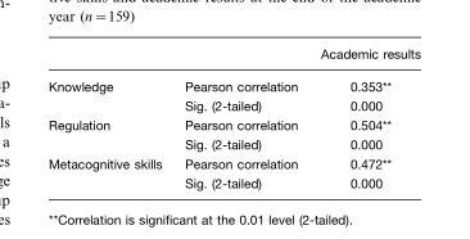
<table><thead><tr><td></td><td></td><td>Academic results</td></tr></thead><tbody><tr><td rowspan="2">Knowledge</td><td>Pearson correlation</td><td>0.353**</td></tr><tr><td>Sig. (2-tailed)</td><td>0.000</td></tr><tr><td rowspan="2">Regulation</td><td>Pearson correlation</td><td>0.504**</td></tr><tr><td>Sig. (2-tailed)</td><td>0.000</td></tr><tr><td rowspan="2">Metacognitive skills</td><td>Pearson correlation</td><td>0.472**</td></tr><tr><td>Sig. (2-tailed)</td><td>0.000</td></tr></tbody></table>